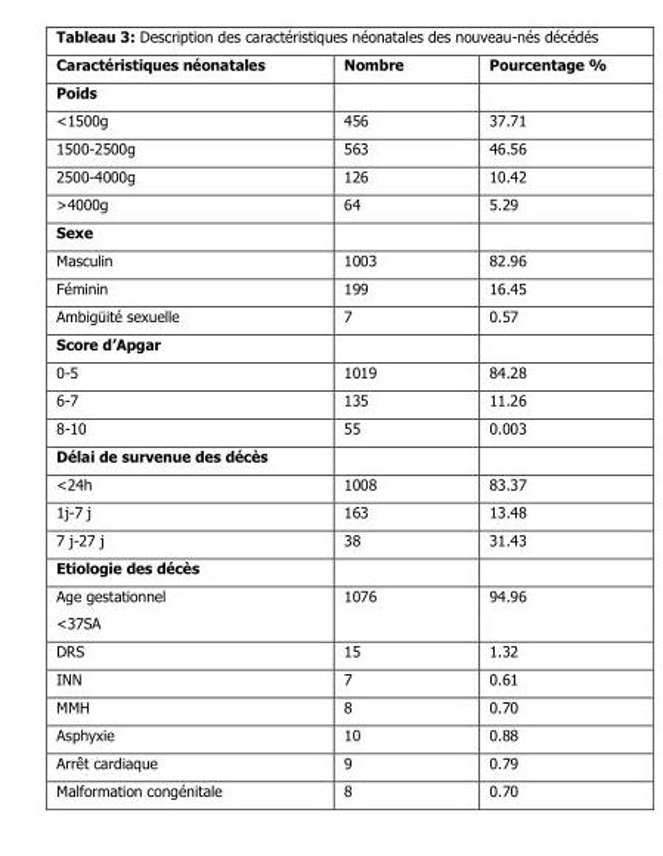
<table><thead><tr><td>Caractéristiques néonatales</td><td>Nombre</td><td>Pourcentage %</td></tr></thead><tbody><tr><td colspan="3">Poids</td></tr><tr><td>&lt;1500g</td><td>456</td><td>37.71</td></tr><tr><td>1500-2500g</td><td>563</td><td>46.56</td></tr><tr><td>2500-4000g</td><td>126</td><td>10.42</td></tr><tr><td>&gt;4000g</td><td>64</td><td>5.29</td></tr><tr><td colspan="3">Sexe</td></tr><tr><td>Masculin</td><td>1003</td><td>82.96</td></tr><tr><td>Féminin</td><td>199</td><td>16.45</td></tr><tr><td>Ambigüité sexuelle</td><td>7</td><td>0.57</td></tr><tr><td colspan="3">Score d’Apgar</td></tr><tr><td>0-5</td><td>1019</td><td>84.28</td></tr><tr><td>6-7</td><td>135</td><td>11.26</td></tr><tr><td>8-10</td><td>55</td><td>0.003</td></tr><tr><td colspan="3">Délai de survenue des décès</td></tr><tr><td>&lt;24h</td><td>1008</td><td>83.37</td></tr><tr><td>1j-7 j</td><td>163</td><td>13.48</td></tr><tr><td>7 j-27 j</td><td>38</td><td>31.43</td></tr><tr><td colspan="3">Etiologie des décès</td></tr><tr><td>Age gestationnel &lt;37SA</td><td>1076</td><td>94.96</td></tr><tr><td>DRS</td><td>15</td><td>1.32</td></tr><tr><td>INN</td><td>7</td><td>0.61</td></tr><tr><td>MMH</td><td>8</td><td>0.70</td></tr><tr><td>Asphyxie</td><td>10</td><td>0.88</td></tr><tr><td>Arrêt cardiaque</td><td>9</td><td>0.79</td></tr><tr><td>Malformation congénitale</td><td>8</td><td>0.70</td></tr></tbody></table>